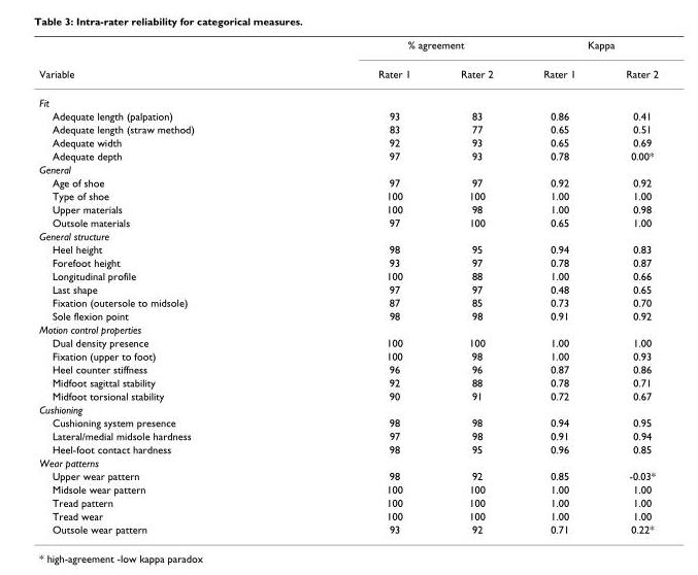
<table><thead><tr><td rowspan="2">Variable</td><td colspan="2">% agreement</td><td colspan="2">Kappa</td></tr><tr><td>Rater 1</td><td>Rater 2</td><td>Rater 1</td><td>Rater 2</td></tr></thead><tbody><tr><td colspan="5">Fit</td></tr><tr><td>Adequate length (palpation)</td><td>93</td><td>83</td><td>0.86</td><td>0.41</td></tr><tr><td>Adequate length (straw method)</td><td>83</td><td>77</td><td>0.65</td><td>0.51</td></tr><tr><td>Adequate width</td><td>92</td><td>93</td><td>0.65</td><td>0.69</td></tr><tr><td>Adequate depth</td><td>97</td><td>93</td><td>0.78</td><td>0.00*</td></tr><tr><td colspan="5">General</td></tr><tr><td>Age of shoe</td><td>97</td><td>97</td><td>0.92</td><td>0.92</td></tr><tr><td>Type of shoe</td><td>100</td><td>100</td><td>1.00</td><td>1.00</td></tr><tr><td>Upper materials</td><td>100</td><td>98</td><td>1.00</td><td>0.98</td></tr><tr><td>Outsole materials</td><td>97</td><td>100</td><td>0.65</td><td>1.00</td></tr><tr><td colspan="5">General structure</td></tr><tr><td>Heel height</td><td>98</td><td>95</td><td>0.94</td><td>0.83</td></tr><tr><td>Forefoot height</td><td>93</td><td>97</td><td>0.78</td><td>0.87</td></tr><tr><td>Longitudinal profile</td><td>100</td><td>88</td><td>1.00</td><td>0.66</td></tr><tr><td>Last shape</td><td>97</td><td>97</td><td>0.48</td><td>0.65</td></tr><tr><td>Fixation (outersole to midsole)</td><td>87</td><td>85</td><td>0.73</td><td>0.70</td></tr><tr><td>Sole flexion point</td><td>98</td><td>98</td><td>0.91</td><td>0.92</td></tr><tr><td colspan="5">Motion control properties</td></tr><tr><td>Dual density presence</td><td>100</td><td>100</td><td>1.00</td><td>1.00</td></tr><tr><td>Fixation (upper to foot)</td><td>100</td><td>98</td><td>1.00</td><td>0.93</td></tr><tr><td>Heel counter stiffness</td><td>96</td><td>96</td><td>0.87</td><td>0.86</td></tr><tr><td>Midfoot sagittal stability</td><td>92</td><td>88</td><td>0.78</td><td>0.71</td></tr><tr><td>Midfoot torsional stability</td><td>90</td><td>91</td><td>0.72</td><td>0.67</td></tr><tr><td colspan="5">Cushioning</td></tr><tr><td>Cushioning system presence</td><td>98</td><td>98</td><td>0.94</td><td>0.95</td></tr><tr><td>Lateral/medial midsole hardness</td><td>97</td><td>98</td><td>0.91</td><td>0.94</td></tr><tr><td>Heel-foot contact hardness</td><td>98</td><td>95</td><td>0.96</td><td>0.85</td></tr><tr><td colspan="5">Wear patterns</td></tr><tr><td>Upper wear pattern</td><td>98</td><td>92</td><td>0.85</td><td>-0.03*</td></tr><tr><td>Midsole wear pattern</td><td>100</td><td>100</td><td>1.00</td><td>1.00</td></tr><tr><td>Tread pattern</td><td>100</td><td>100</td><td>1.00</td><td>1.00</td></tr><tr><td>Tread wear</td><td>100</td><td>100</td><td>1.00</td><td>1.00</td></tr><tr><td>Outsole wear pattern</td><td>93</td><td>92</td><td>0.71</td><td>0.22*</td></tr></tbody></table>